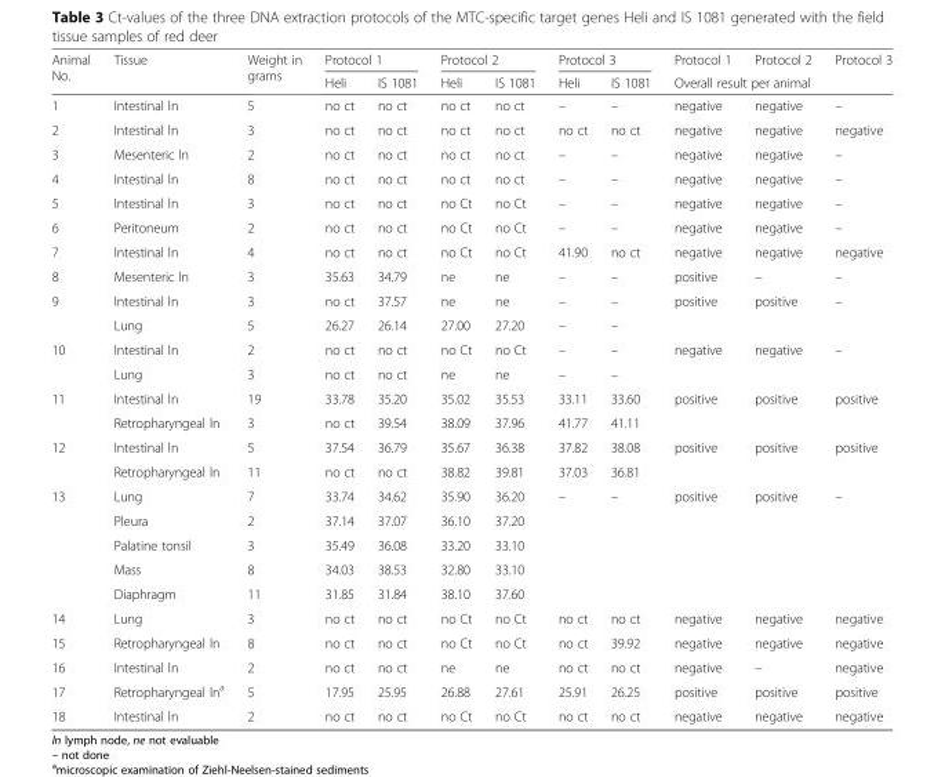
<table><thead><tr><td rowspan="2">Animal No.</td><td rowspan="2">Tissue</td><td rowspan="2">Weight in grams</td><td colspan="2">Protocol 1</td><td colspan="2">Protocol 2</td><td colspan="2">Protocol 3</td><td>Protocol 1</td><td>Protocol 2</td><td>Protocol 3</td></tr><tr><td>Heli</td><td>IS 1081</td><td>Heli</td><td>IS 1081</td><td>Heli</td><td>IS 1081</td><td colspan="3">Overall result per animal</td></tr></thead><tbody><tr><td>1</td><td>Intestinal ln</td><td>5</td><td>no ct</td><td>no ct</td><td>no ct</td><td>no ct</td><td>–</td><td>–</td><td>negative</td><td>negative</td><td>–</td></tr><tr><td>2</td><td>Intestinal ln</td><td>3</td><td>no ct</td><td>no ct</td><td>no ct</td><td>no ct</td><td>no ct</td><td>no ct</td><td>negative</td><td>negative</td><td>negative</td></tr><tr><td>3</td><td>Mesenteric ln</td><td>2</td><td>no ct</td><td>no ct</td><td>no ct</td><td>no ct</td><td>–</td><td>–</td><td>negative</td><td>negative</td><td>–</td></tr><tr><td>4</td><td>Intestinal ln</td><td>8</td><td>no ct</td><td>no ct</td><td>no ct</td><td>no ct</td><td>–</td><td>–</td><td>negative</td><td>negative</td><td>–</td></tr><tr><td>5</td><td>Intestinal ln</td><td>3</td><td>no ct</td><td>no ct</td><td>no Ct</td><td>no Ct</td><td>–</td><td>–</td><td>negative</td><td>negative</td><td>–</td></tr><tr><td>6</td><td>Peritoneum</td><td>2</td><td>no ct</td><td>no ct</td><td>no Ct</td><td>no Ct</td><td>–</td><td>–</td><td>negative</td><td>negative</td><td>–</td></tr><tr><td>7</td><td>Intestinal ln</td><td>4</td><td>no ct</td><td>no ct</td><td>no Ct</td><td>no Ct</td><td>41.90</td><td>no ct</td><td>negative</td><td>negative</td><td>negative</td></tr><tr><td>8</td><td>Mesenteric ln</td><td>3</td><td>35.63</td><td>34.79</td><td>ne</td><td>ne</td><td>–</td><td>–</td><td>positive</td><td>–</td><td>–</td></tr><tr><td rowspan="2">9</td><td>Intestinal ln</td><td>3</td><td>no ct</td><td>37.57</td><td>ne</td><td>ne</td><td>–</td><td>–</td><td rowspan="2">positive</td><td rowspan="2">positive</td><td rowspan="2">–</td></tr><tr><td>Lung</td><td>5</td><td>26.27</td><td>26.14</td><td>27.00</td><td>27.20</td><td>–</td><td>–</td></tr><tr><td rowspan="2">10</td><td>Intestinal ln</td><td>2</td><td>no ct</td><td>no ct</td><td>no Ct</td><td>no Ct</td><td>–</td><td>–</td><td rowspan="2">negative</td><td rowspan="2">negative</td><td rowspan="2">–</td></tr><tr><td>Lung</td><td>3</td><td>no ct</td><td>no ct</td><td>ne</td><td>ne</td><td>–</td><td>–</td></tr><tr><td rowspan="2">11</td><td>Intestinal ln</td><td>19</td><td>33.78</td><td>35.20</td><td>35.02</td><td>35.53</td><td>33.11</td><td>33.60</td><td rowspan="2">positive</td><td rowspan="2">positive</td><td rowspan="2">positive</td></tr><tr><td>Retropharyngeal ln</td><td>3</td><td>no ct</td><td>39.54</td><td>38.09</td><td>37.96</td><td>41.77</td><td>41.11</td></tr><tr><td rowspan="2">12</td><td>Intestinal ln</td><td>5</td><td>37.54</td><td>36.79</td><td>35.67</td><td>36.38</td><td>37.82</td><td>38.08</td><td rowspan="2">positive</td><td rowspan="2">positive</td><td rowspan="2">positive</td></tr><tr><td>Retropharyngeal ln</td><td>11</td><td>no ct</td><td>no ct</td><td>38.82</td><td>39.81</td><td>37.03</td><td>36.81</td></tr><tr><td rowspan="5">13</td><td>Lung</td><td>7</td><td>33.74</td><td>34.62</td><td>35.90</td><td>36.20</td><td>–</td><td>–</td><td rowspan="5">positive</td><td rowspan="5">positive</td><td rowspan="5">–</td></tr><tr><td>Pleura</td><td>2</td><td>37.14</td><td>37.07</td><td>36.10</td><td>37.20</td><td></td><td></td></tr><tr><td>Palatine tonsil</td><td>3</td><td>35.49</td><td>36.08</td><td>33.20</td><td>33.10</td><td></td><td></td></tr><tr><td>Mass</td><td>8</td><td>34.03</td><td>38.53</td><td>32.80</td><td>33.10</td><td></td><td></td></tr><tr><td>Diaphragm</td><td>11</td><td>31.85</td><td>31.84</td><td>38.10</td><td>37.60</td><td></td><td></td></tr><tr><td>14</td><td>Lung</td><td>3</td><td>no ct</td><td>no ct</td><td>no Ct</td><td>no Ct</td><td>no ct</td><td>no ct</td><td>negative</td><td>negative</td><td>negative</td></tr><tr><td>15</td><td>Retropharyngeal ln</td><td>8</td><td>no ct</td><td>no ct</td><td>no Ct</td><td>no Ct</td><td>no ct</td><td>39.92</td><td>negative</td><td>negative</td><td>negative</td></tr><tr><td>16</td><td>Intestinal ln</td><td>2</td><td>no ct</td><td>no ct</td><td>ne</td><td>ne</td><td>no ct</td><td>no ct</td><td>negative</td><td>–</td><td>negative</td></tr><tr><td>17</td><td>Retropharyngeal ln<sup>a</sup></td><td>5</td><td>17.95</td><td>25.95</td><td>26.88</td><td>27.61</td><td>25.91</td><td>26.25</td><td>positive</td><td>positive</td><td>positive</td></tr><tr><td>18</td><td>Intestinal ln</td><td>2</td><td>no ct</td><td>no ct</td><td>no Ct</td><td>no Ct</td><td>no ct</td><td>no ct</td><td>negative</td><td>negative</td><td>negative</td></tr></tbody></table>